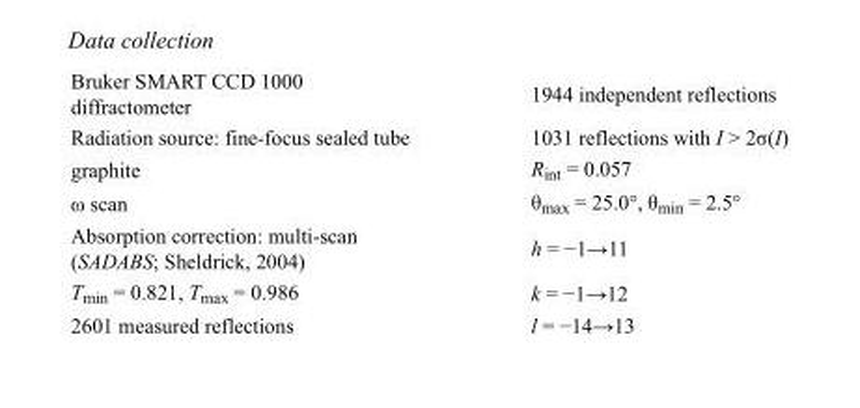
<table><tbody><tr><td>Bruker SMART CCD 1000 diffractometer</td><td>1944 independent reflections</td></tr><tr><td>Radiation source: fine-focus sealed tube</td><td>1031 reflections with I &gt; 2σ(I)</td></tr><tr><td>graphite</td><td>R<sub>int</sub> = 0.057</td></tr><tr><td>ω scan</td><td>θ<sub>max</sub> = 25.0°, θ<sub>min</sub> = 2.5°</td></tr><tr><td>Absorption correction: multi-scan (SADABS; Sheldrick, 2004)</td><td>h = −1→11</td></tr><tr><td>T<sub>min</sub> = 0.821, T<sub>max</sub> = 0.986</td><td>k = −1→12</td></tr><tr><td>2601 measured reflections</td><td>l = −14→13</td></tr></tbody></table>